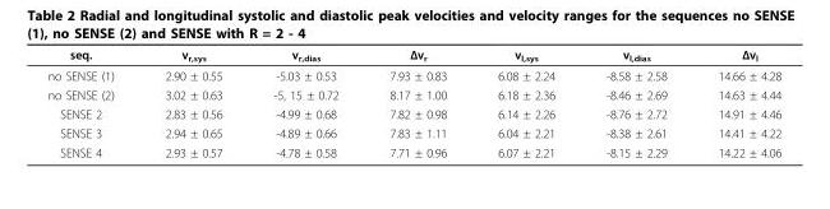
<table><thead><tr><td>seq.</td><td>v<sub>r,sys</sub></td><td>v<sub>r,dias</sub></td><td>Δv<sub>r</sub></td><td>v<sub>l,sys</sub></td><td>v<sub>l,dias</sub></td><td>Δv<sub>l</sub></td></tr></thead><tbody><tr><td>no SENSE (1)</td><td>2.90 ± 0.55</td><td>-5.03 ± 0.53</td><td>7.93 ± 0.83</td><td>6.08 ± 2.24</td><td>-8.58 ± 2.58</td><td>14.66 ± 4.28</td></tr><tr><td>no SENSE (2)</td><td>3.02 ± 0.63</td><td>-5, 15 ± 0.72</td><td>8.17 ± 1.00</td><td>6.18 ± 2.36</td><td>-8.46 ± 2.69</td><td>14.63 ± 4.44</td></tr><tr><td>SENSE 2</td><td>2.83 ± 0.56</td><td>-4.99 ± 0.68</td><td>7.82 ± 0.98</td><td>6.14 ± 2.26</td><td>-8.76 ± 2.72</td><td>14.91 ± 4.46</td></tr><tr><td>SENSE 3</td><td>2.94 ± 0.65</td><td>-4.89 ± 0.66</td><td>7.83 ± 1.11</td><td>6.04 ± 2.21</td><td>-8.38 ± 2.61</td><td>14.41 ± 4.22</td></tr><tr><td>SENSE 4</td><td>2.93 ± 0.57</td><td>-4.78 ± 0.58</td><td>7.71 ± 0.96</td><td>6.07 ± 2.21</td><td>-8.15 ± 2.29</td><td>14.22 ± 4.06</td></tr></tbody></table>